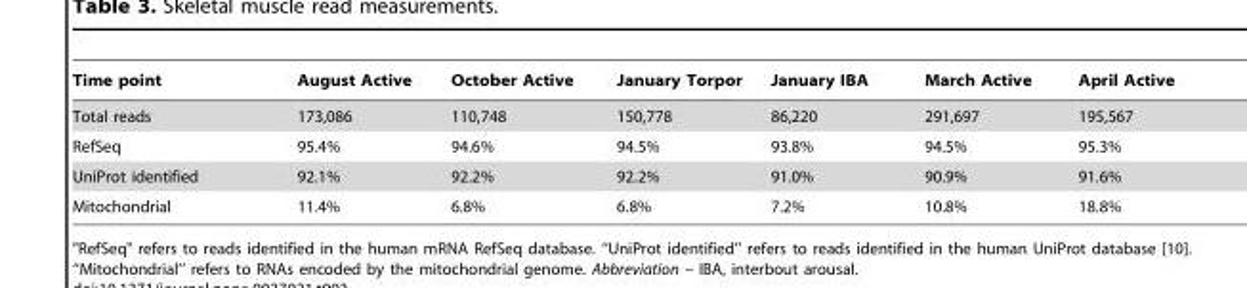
<table><thead><tr><td>Time point</td><td>August Active</td><td>October Active</td><td>January Torpor</td><td>January IBA</td><td>March Active</td><td>April Active</td></tr></thead><tbody><tr><td>Total reads</td><td>173,086</td><td>110,748</td><td>150,778</td><td>86,220</td><td>291,697</td><td>195,567</td></tr><tr><td>RefSeq</td><td>95.4%</td><td>94.6%</td><td>94.5%</td><td>93.8%</td><td>94.5%</td><td>95.3%</td></tr><tr><td>UniProt identified</td><td>92.1%</td><td>92.2%</td><td>92.2%</td><td>91.0%</td><td>90.9%</td><td>91.6%</td></tr><tr><td>Mitochondrial</td><td>11.4%</td><td>6.8%</td><td>6.8%</td><td>7.2%</td><td>10.8%</td><td>18.8%</td></tr></tbody></table>